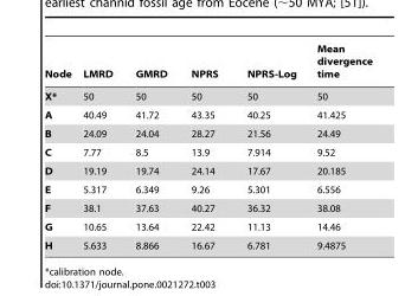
<table><thead><tr><td>Node</td><td>LMRD</td><td>GMRD</td><td>NPRS</td><td>NPRS-Log</td><td>Mean divergence time</td></tr></thead><tbody><tr><td>X*</td><td>50</td><td>50</td><td>50</td><td>50</td><td>50</td></tr><tr><td>A</td><td>40.49</td><td>41.72</td><td>43.35</td><td>40.25</td><td>41.425</td></tr><tr><td>B</td><td>24.09</td><td>24.04</td><td>28.27</td><td>21.56</td><td>24.49</td></tr><tr><td>C</td><td>7.77</td><td>8.5</td><td>13.9</td><td>7.914</td><td>9.52</td></tr><tr><td>D</td><td>19.19</td><td>19.74</td><td>24.14</td><td>17.67</td><td>20.185</td></tr><tr><td>E</td><td>5.317</td><td>6.349</td><td>9.26</td><td>5.301</td><td>6.556</td></tr><tr><td>F</td><td>38.1</td><td>37.63</td><td>40.27</td><td>36.32</td><td>38.08</td></tr><tr><td>G</td><td>10.65</td><td>13.64</td><td>22.42</td><td>11.13</td><td>14.46</td></tr><tr><td>H</td><td>5.633</td><td>8.866</td><td>16.67</td><td>6.781</td><td>9.4875</td></tr></tbody></table>